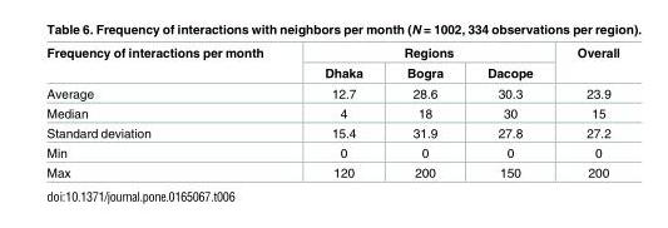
<table><thead><tr><td rowspan="2">Frequency of interactions per month</td><td colspan="3">Regions</td><td rowspan="2">Overall</td></tr><tr><td>Dhaka</td><td>Bogra</td><td>Dacope</td></tr></thead><tbody><tr><td>Average</td><td>12.7</td><td>28.6</td><td>30.3</td><td>23.9</td></tr><tr><td>Median</td><td>4</td><td>18</td><td>30</td><td>15</td></tr><tr><td>Standard deviation</td><td>15.4</td><td>31.9</td><td>27.8</td><td>27.2</td></tr><tr><td>Min</td><td>0</td><td>0</td><td>0</td><td>0</td></tr><tr><td>Max</td><td>120</td><td>200</td><td>150</td><td>200</td></tr></tbody></table>